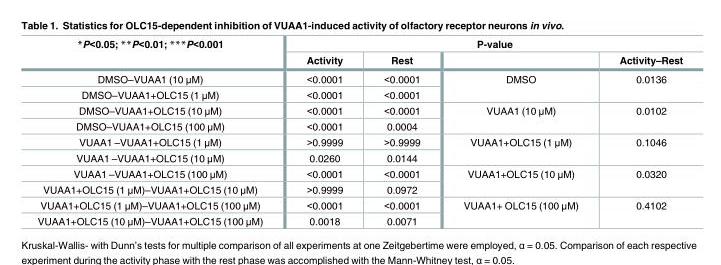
<table><thead><tr><td rowspan="2">*P&lt;0.05; **P&lt;0.01; ***P&lt;0.001</td><td colspan="4">P-value</td></tr><tr><td>Activity</td><td>Rest</td><td></td><td>Activity–Rest</td></tr></thead><tbody><tr><td>DMSO–VUAA1 (10 μM)</td><td>&lt;0.0001</td><td>&lt;0.0001</td><td rowspan="2">DMSO</td><td rowspan="2">0.0136</td></tr><tr><td>DMSO–VUAA1+OLC15 (1 μM)</td><td>&lt;0.0001</td><td>&lt;0.0001</td></tr><tr><td>DMSO–VUAA1+OLC15 (10 μM)</td><td>&lt;0.0001</td><td>&lt;0.0001</td><td rowspan="2">VUAA1 (10 μM)</td><td rowspan="2">0.0102</td></tr><tr><td>DMSO–VUAA1+OLC15 (100 μM)</td><td>&lt;0.0001</td><td>0.0004</td></tr><tr><td>VUAA1 –VUAA1+OLC15 (1 μM)</td><td>&gt;0.9999</td><td>&gt;0.9999</td><td rowspan="2">VUAA1+OLC15 (1 μM)</td><td rowspan="2">0.1046</td></tr><tr><td>VUAA1 –VUAA1+OLC15 (10 μM)</td><td>0.0260</td><td>0.0144</td></tr><tr><td>VUAA1 –VUAA1+OLC15 (100 μM)</td><td>&lt;0.0001</td><td>&lt;0.0001</td><td rowspan="2">VUAA1+OLC15 (10 μM)</td><td rowspan="2">0.0320</td></tr><tr><td>VUAA1+OLC15 (1 μM)–VUAA1+OLC15 (10 μM)</td><td>&gt;0.9999</td><td>0.0972</td></tr><tr><td>VUAA1+OLC15 (1 μM)–VUAA1+OLC15 (100 μM)</td><td>&lt;0.0001</td><td>&lt;0.0001</td><td rowspan="2">VUAA1+ OLC15 (100 μM)</td><td rowspan="2">0.4102</td></tr><tr><td>VUAA1+OLC15 (10 μM)–VUAA1+OLC15 (100 μM)</td><td>0.0018</td><td>0.0071</td></tr></tbody></table>